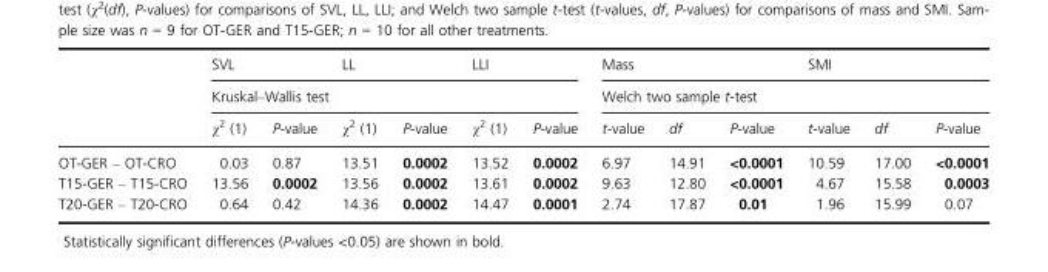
<table><thead><tr><td rowspan="3"></td><td colspan="2">SVL</td><td colspan="2">LL</td><td colspan="2">LLI</td><td colspan="3">Mass</td><td colspan="3">SMI</td></tr><tr><td colspan="6">Kruskal–Wallis test</td><td colspan="6">Welch two sample t-test</td></tr><tr><td>χ<sup>2</sup> (1)</td><td>P-value</td><td>χ<sup>2</sup> (1)</td><td>P-value</td><td>χ<sup>2</sup> (1)</td><td>P-value</td><td>t-value</td><td>df</td><td>P-value</td><td>t-value</td><td>df</td><td>P-value</td></tr></thead><tbody><tr><td>OT-GER – OT-CRO</td><td>0.03</td><td>0.87</td><td>13.51</td><td>0.0002</td><td>13.52</td><td>0.0002</td><td>6.97</td><td>14.91</td><td>&lt;0.0001</td><td>10.59</td><td>17.00</td><td>&lt;0.0001</td></tr><tr><td>T15-GER – T15-CRO</td><td>13.56</td><td>0.0002</td><td>13.56</td><td>0.0002</td><td>13.61</td><td>0.0002</td><td>9.63</td><td>12.80</td><td>&lt;0.0001</td><td>4.67</td><td>15.58</td><td>0.0003</td></tr><tr><td>T20-GER – T20-CRO</td><td>0.64</td><td>0.42</td><td>14.36</td><td>0.0002</td><td>14.47</td><td>0.0001</td><td>2.74</td><td>17.87</td><td>0.01</td><td>1.96</td><td>15.99</td><td>0.07</td></tr></tbody></table>